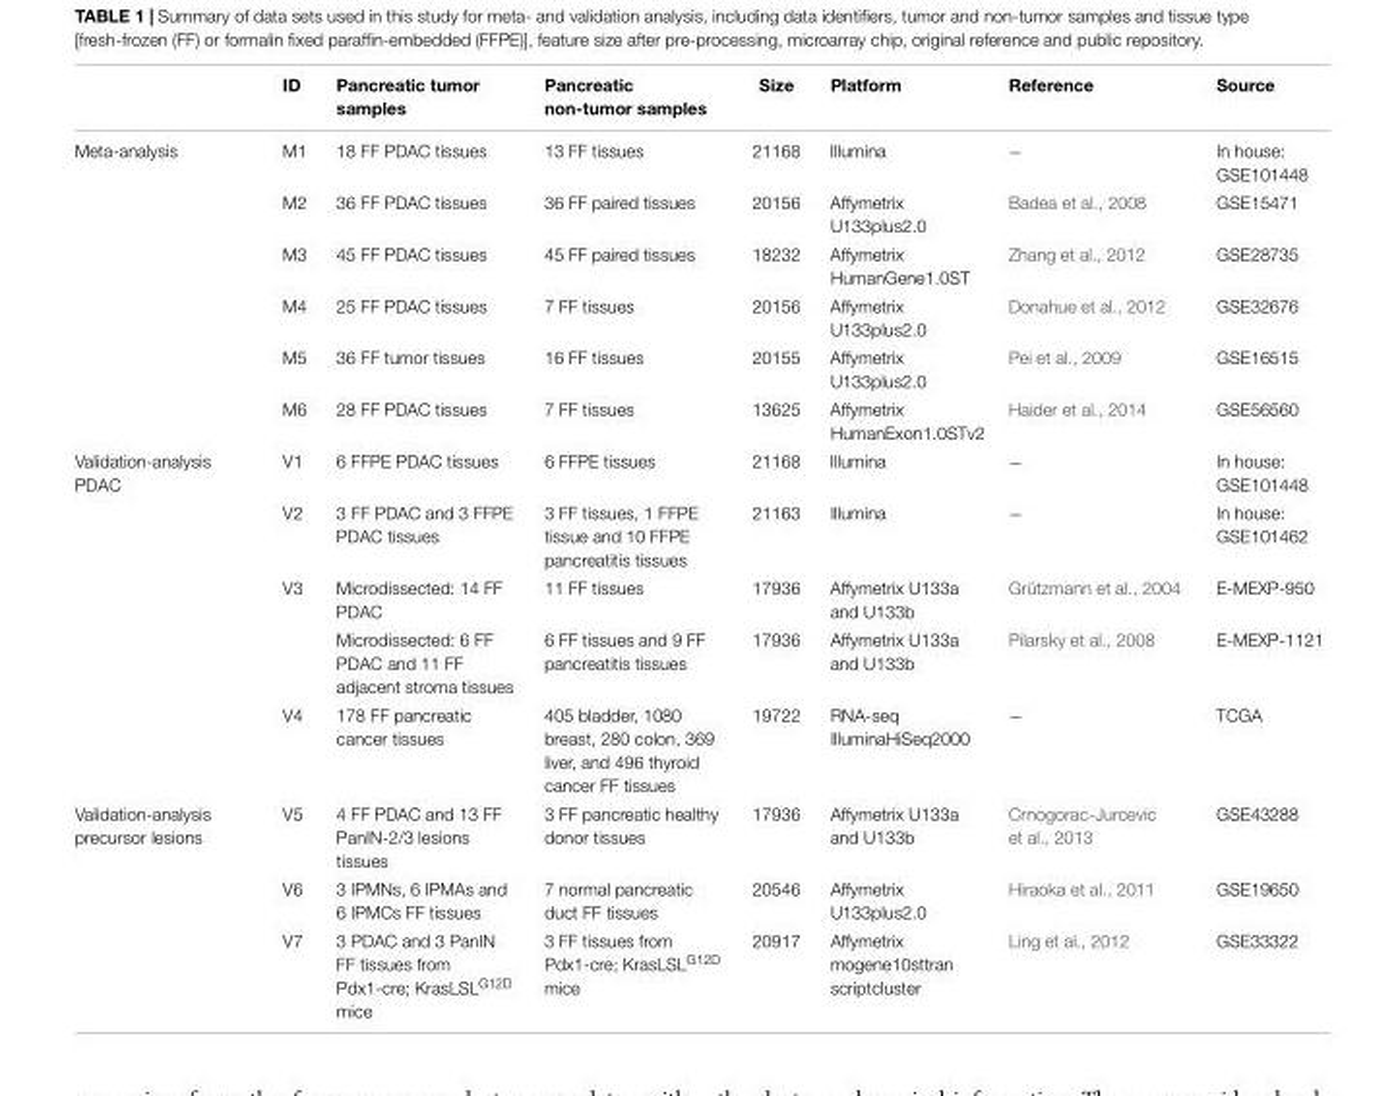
<table><thead><tr><td></td><td>ID</td><td>Pancreatic tumor samples</td><td>Pancreatic non-tumor samples</td><td>Size</td><td>Platform</td><td>Reference</td><td>Source</td></tr></thead><tbody><tr><td rowspan="6">Meta-analysis</td><td>M1</td><td>18 FF PDAC tissues</td><td>13 FF tissues</td><td>21168</td><td>Illumina</td><td>−</td><td>In house: GSE101448</td></tr><tr><td>M2</td><td>36 FF PDAC tissues</td><td>36 FF paired tissues</td><td>20156</td><td>Affymetrix U133plus2.0</td><td>Badea et al., 2008</td><td>GSE15471</td></tr><tr><td>M3</td><td>45 FF PDAC tissues</td><td>45 FF paired tissues</td><td>18232</td><td>Affymetrix HumanGene1.0ST</td><td>Zhang et al., 2012</td><td>GSE28735</td></tr><tr><td>M4</td><td>25 FF PDAC tissues</td><td>7 FF tissues</td><td>20156</td><td>Affymetrix U133plus2.0</td><td>Donahue et al., 2012</td><td>GSE32676</td></tr><tr><td>M5</td><td>36 FF tumor tissues</td><td>16 FF tissues</td><td>20155</td><td>Affymetrix U133plus2.0</td><td>Pei et al., 2009</td><td>GSE16515</td></tr><tr><td>M6</td><td>28 FF PDAC tissues</td><td>7 FF tissues</td><td>13625</td><td>Affymetrix HumanExon1.0STv2</td><td>Haider et al., 2014</td><td>GSE56560</td></tr><tr><td rowspan="5">Validation-analysis PDAC</td><td>V1</td><td>6 FFPE PDAC tissues</td><td>6 FFPE tissues</td><td>21168</td><td>Illumina</td><td>−</td><td>In house: GSE101448</td></tr><tr><td>V2</td><td>3 FF PDAC and 3 FFPE PDAC tissues</td><td>3 FF tissues, 1 FFPE tissue and 10 FFPE pancreatitis tissues</td><td>21163</td><td>Illumina</td><td>−</td><td>In house: GSE101462</td></tr><tr><td>V3</td><td>Microdissected: 14 FF PDAC</td><td>11 FF tissues</td><td>17936</td><td>Affymetrix U133a and U133b</td><td>Grützmann et al., 2004</td><td>E-MEXP-950</td></tr><tr><td></td><td>Microdissected: 6 FF PDAC and 11 FF adjacent stroma tissues</td><td>6 FF tissues and 9 FF pancreatitis tissues</td><td>17936</td><td>Affymetrix U133a and U133b</td><td>Pilarsky et al., 2008</td><td>E-MEXP-1121</td></tr><tr><td>V4</td><td>178 FF pancreatic cancer tissues</td><td>405 bladder, 1080 breast, 280 colon, 369 liver, and 496 thyroid cancer FF tissues</td><td>19722</td><td>RNA-seq IlluminaHiSeq2000</td><td>−</td><td>TCGA</td></tr><tr><td rowspan="3">Validation-analysis precursor lesions</td><td>V5</td><td>4 FF PDAC and 13 FF PanIN-2/3 lesions tissues</td><td>3 FF pancreatic healthy donor tissues</td><td>17936</td><td>Affymetrix U133a and U133b</td><td>Crnogorac-Jurcevic et al., 2013</td><td>GSE43288</td></tr><tr><td>V6</td><td>3 IPMNs, 6 IPMAs and 6 IPMCs FF tissues</td><td>7 normal pancreatic duct FF tissues</td><td>20546</td><td>Affymetrix U133plus2.0</td><td>Hiraoka et al., 2011</td><td>GSE19650</td></tr><tr><td>V7</td><td>3 PDAC and 3 PanIN FF tissues from Pdx1-cre; KrasLSL<sup>G12D</sup> mice</td><td>3 FF tissues from Pdx1-cre; KrasLSL<sup>G12D</sup> mice</td><td>20917</td><td>Affymetrix mogene10sttran scriptcluster</td><td>Ling et al., 2012</td><td>GSE33322</td></tr></tbody></table>